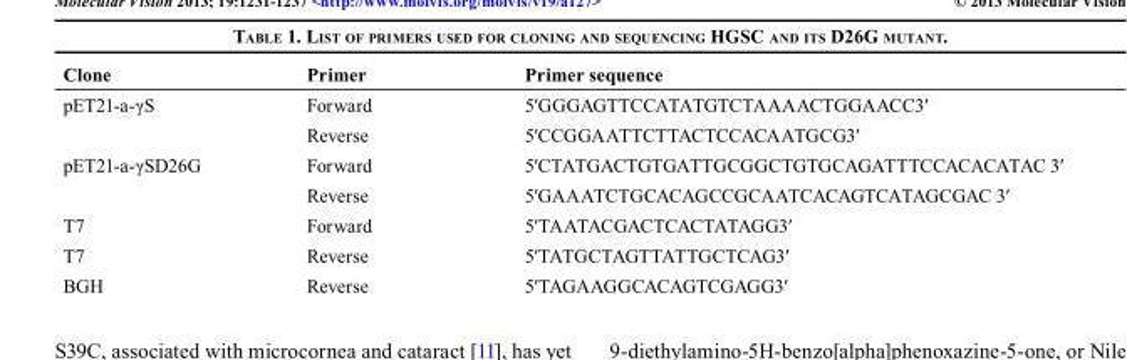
<table><thead><tr><td>Clone</td><td>Primer</td><td>Primer sequence</td></tr></thead><tbody><tr><td rowspan="2">pET21-a-γS</td><td>Forward</td><td>5′GGGAGTTCCATATGTCTAAAACTGGAACC3′</td></tr><tr><td>Reverse</td><td>5′CCGGAATTCTTACTCCACAATGCG3′</td></tr><tr><td rowspan="2">pET21-a-γSD26G</td><td>Forward</td><td>5′CTATGACTGTGATTGCGGCTGTGCAGATTTCCACACATAC 3′</td></tr><tr><td>Reverse</td><td>5′GAAATCTGCACAGCCGCAATCACAGTCATAGCGAC 3′</td></tr><tr><td>T7</td><td>Forward</td><td>5′TAATACGACTCACTATAGG3′</td></tr><tr><td>T7</td><td>Reverse</td><td>5′TATGCTAGTTATTGCTCAG3′</td></tr><tr><td>BGH</td><td>Reverse</td><td>5′TAGAAGGCACAGTCGAGG3′</td></tr></tbody></table>